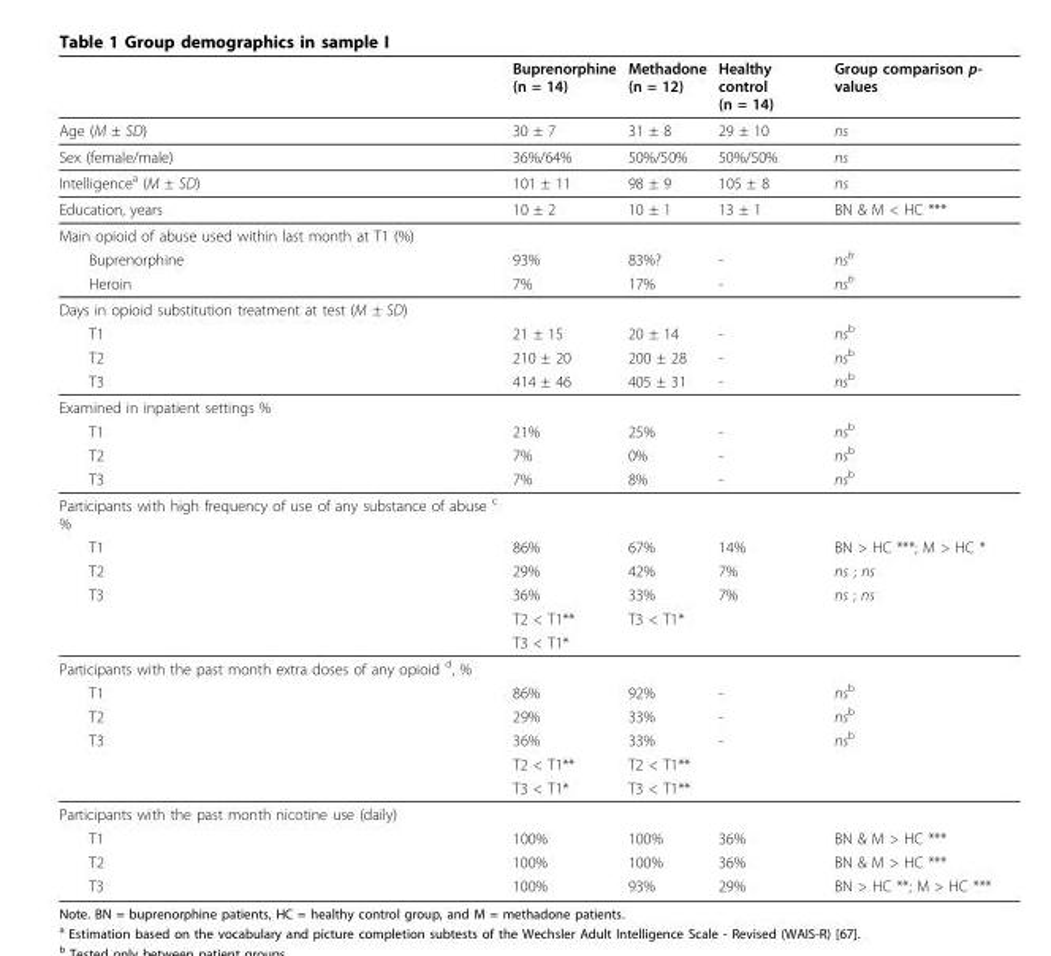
<table><thead><tr><td></td><td>Buprenorphine (n = 14)</td><td>Methadone (n = 12)</td><td>Healthy control (n = 14)</td><td>Group comparison p- values</td></tr></thead><tbody><tr><td>Age (M ± SD)</td><td>30 ± 7</td><td>31 ± 8</td><td>29 ± 10</td><td>ns</td></tr><tr><td>Sex (female/male)</td><td>36%/64%</td><td>50%/50%</td><td>50%/50%</td><td>ns</td></tr><tr><td>Intelligence<sup>a</sup> (M ± SD)</td><td>101 ± 11</td><td>98 ± 9</td><td>105 ± 8</td><td>ns</td></tr><tr><td>Education, years</td><td>10 ± 2</td><td>10 ± 1</td><td>13 ± 1</td><td>BN &amp; M &lt; HC ***</td></tr><tr><td colspan="5">Main opioid of abuse used within last month at T1 (%)</td></tr><tr><td>Buprenorphine</td><td>93%</td><td>83%?</td><td>-</td><td>ns<sup>b</sup></td></tr><tr><td>Heroin</td><td>7%</td><td>17%</td><td>-</td><td>ns<sup>b</sup></td></tr><tr><td colspan="5">Days in opioid substitution treatment at test (M ± SD)</td></tr><tr><td>T1</td><td>21 ± 15</td><td>20 ± 14</td><td>-</td><td>ns<sup>b</sup></td></tr><tr><td>T2</td><td>210 ± 20</td><td>200 ± 28</td><td>-</td><td>ns<sup>b</sup></td></tr><tr><td>T3</td><td>414 ± 46</td><td>405 ± 31</td><td>-</td><td>ns<sup>b</sup></td></tr><tr><td colspan="5">Examined in inpatient settings %</td></tr><tr><td>T1</td><td>21%</td><td>25%</td><td>-</td><td>ns<sup>b</sup></td></tr><tr><td>T2</td><td>7%</td><td>0%</td><td>-</td><td>ns<sup>b</sup></td></tr><tr><td>T3</td><td>7%</td><td>8%</td><td>-</td><td>ns<sup>b</sup></td></tr><tr><td colspan="5">Participants with high frequency of use of any substance of abuse <sup>c</sup> %</td></tr><tr><td>T1</td><td>86%</td><td>67%</td><td>14%</td><td>BN &gt; HC ***; M &gt; HC *</td></tr><tr><td>T2</td><td>29%</td><td>42%</td><td>7%</td><td>ns ; ns</td></tr><tr><td rowspan="3">T3</td><td>36%</td><td>33%</td><td>7%</td><td>ns ; ns</td></tr><tr><td>T2 &lt; T1**</td><td>T3 &lt; T1*</td><td></td><td></td></tr><tr><td>T3 &lt; T1*</td><td></td><td></td><td></td></tr><tr><td colspan="5">Participants with the past month extra doses of any opioid <sup>d</sup>, %</td></tr><tr><td>T1</td><td>86%</td><td>92%</td><td>-</td><td>ns<sup>b</sup></td></tr><tr><td>T2</td><td>29%</td><td>33%</td><td>-</td><td>ns<sup>b</sup></td></tr><tr><td rowspan="3">T3</td><td>36%</td><td>33%</td><td>-</td><td>ns<sup>b</sup></td></tr><tr><td>T2 &lt; T1**</td><td>T2 &lt; T1**</td><td></td><td></td></tr><tr><td>T3 &lt; T1*</td><td>T3 &lt; T1**</td><td></td><td></td></tr><tr><td colspan="5">Participants with the past month nicotine use (daily)</td></tr><tr><td>T1</td><td>100%</td><td>100%</td><td>36%</td><td>BN &amp; M &gt; HC ***</td></tr><tr><td>T2</td><td>100%</td><td>100%</td><td>36%</td><td>BN &amp; M &gt; HC ***</td></tr><tr><td>T3</td><td>100%</td><td>93%</td><td>29%</td><td>BN &gt; HC **; M &gt; HC ***</td></tr></tbody></table>